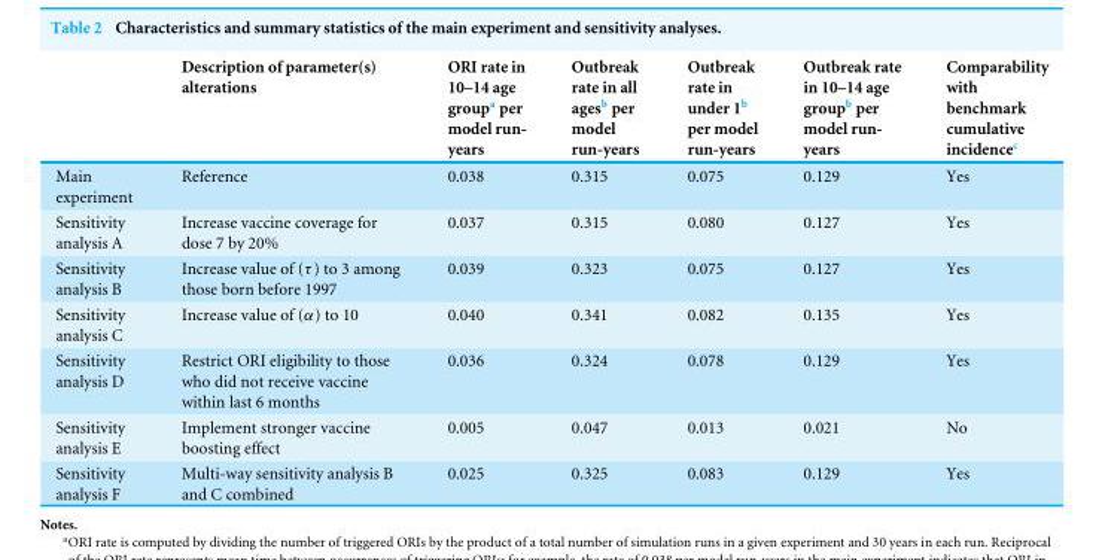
<table><thead><tr><td></td><td>Description of parameter(s) alterations</td><td>ORI rate in 10–14 age group<sup>a</sup> per model run- years</td><td>Outbreak rate in all ages<sup>b</sup> per model run-years</td><td>Outbreak rate in under 1<sup>b</sup> per model run-years</td><td>Outbreak rate in 10–14 age group<sup>b</sup> per model run- years</td><td>Comparability with benchmark cumulative incidence<sup>c</sup></td></tr></thead><tbody><tr><td>Main experiment</td><td>Reference</td><td>0.038</td><td>0.315</td><td>0.075</td><td>0.129</td><td>Yes</td></tr><tr><td>Sensitivity analysis A</td><td>Increase vaccine coverage for dose 7 by 20%</td><td>0.037</td><td>0.315</td><td>0.080</td><td>0.127</td><td>Yes</td></tr><tr><td>Sensitivity analysis B</td><td>Increase value of (τ) to 3 among those born before 1997</td><td>0.039</td><td>0.323</td><td>0.075</td><td>0.127</td><td>Yes</td></tr><tr><td>Sensitivity analysis C</td><td>Increase value of (α) to 10</td><td>0.040</td><td>0.341</td><td>0.082</td><td>0.135</td><td>Yes</td></tr><tr><td>Sensitivity analysis D</td><td>Restrict ORI eligibility to those who did not receive vaccine within last 6 months</td><td>0.036</td><td>0.324</td><td>0.078</td><td>0.129</td><td>Yes</td></tr><tr><td>Sensitivity analysis E</td><td>Implement stronger vaccine boosting effect</td><td>0.005</td><td>0.047</td><td>0.013</td><td>0.021</td><td>No</td></tr><tr><td>Sensitivity analysis F</td><td>Multi-way sensitivity analysis B and C combined</td><td>0.025</td><td>0.325</td><td>0.083</td><td>0.129</td><td>Yes</td></tr></tbody></table>